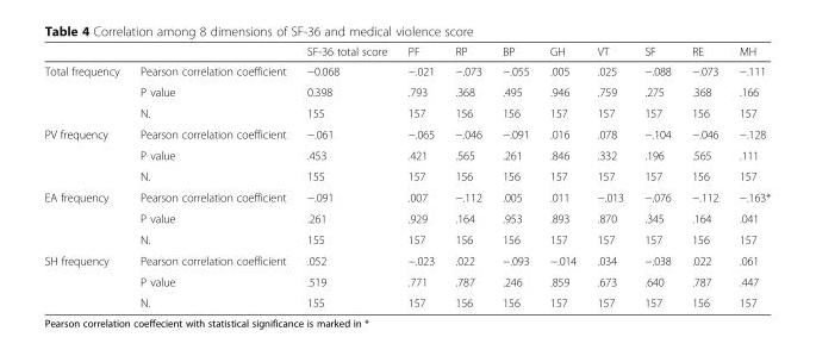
<table><thead><tr><td></td><td></td><td>SF-36 total score</td><td>PF</td><td>RP</td><td>BP</td><td>GH</td><td>VT</td><td>SF</td><td>RE</td><td>MH</td></tr></thead><tbody><tr><td rowspan="3">Total frequency</td><td>Pearson correlation coefficient</td><td>−0.068</td><td>−.021</td><td>−.073</td><td>−.055</td><td>.005</td><td>.025</td><td>−.088</td><td>−.073</td><td>−.111</td></tr><tr><td>P value</td><td>0.398</td><td>.793</td><td>.368</td><td>.495</td><td>.946</td><td>.759</td><td>.275</td><td>.368</td><td>.166</td></tr><tr><td>N.</td><td>155</td><td>157</td><td>156</td><td>156</td><td>157</td><td>157</td><td>157</td><td>156</td><td>157</td></tr><tr><td rowspan="3">PV frequency</td><td>Pearson correlation coefficient</td><td>−.061</td><td>−.065</td><td>−.046</td><td>−.091</td><td>.016</td><td>.078</td><td>−.104</td><td>−.046</td><td>−.128</td></tr><tr><td>P value</td><td>.453</td><td>.421</td><td>.565</td><td>.261</td><td>.846</td><td>.332</td><td>.196</td><td>.565</td><td>.111</td></tr><tr><td>N.</td><td>155</td><td>157</td><td>156</td><td>156</td><td>157</td><td>157</td><td>157</td><td>156</td><td>157</td></tr><tr><td rowspan="3">EA frequency</td><td>Pearson correlation coefficient</td><td>−.091</td><td>.007</td><td>−.112</td><td>.005</td><td>.011</td><td>−.013</td><td>−.076</td><td>−.112</td><td>−.163*</td></tr><tr><td>P value</td><td>.261</td><td>.929</td><td>.164</td><td>.953</td><td>.893</td><td>.870</td><td>.345</td><td>.164</td><td>.041</td></tr><tr><td>N.</td><td>155</td><td>157</td><td>156</td><td>156</td><td>157</td><td>157</td><td>157</td><td>156</td><td>157</td></tr><tr><td rowspan="3">SH frequency</td><td>Pearson correlation coefficient</td><td>.052</td><td>−.023</td><td>.022</td><td>−.093</td><td>−.014</td><td>.034</td><td>−.038</td><td>.022</td><td>.061</td></tr><tr><td>P value</td><td>.519</td><td>.771</td><td>.787</td><td>.246</td><td>.859</td><td>.673</td><td>.640</td><td>.787</td><td>.447</td></tr><tr><td>N.</td><td>155</td><td>157</td><td>156</td><td>156</td><td>157</td><td>157</td><td>157</td><td>156</td><td>157</td></tr></tbody></table>